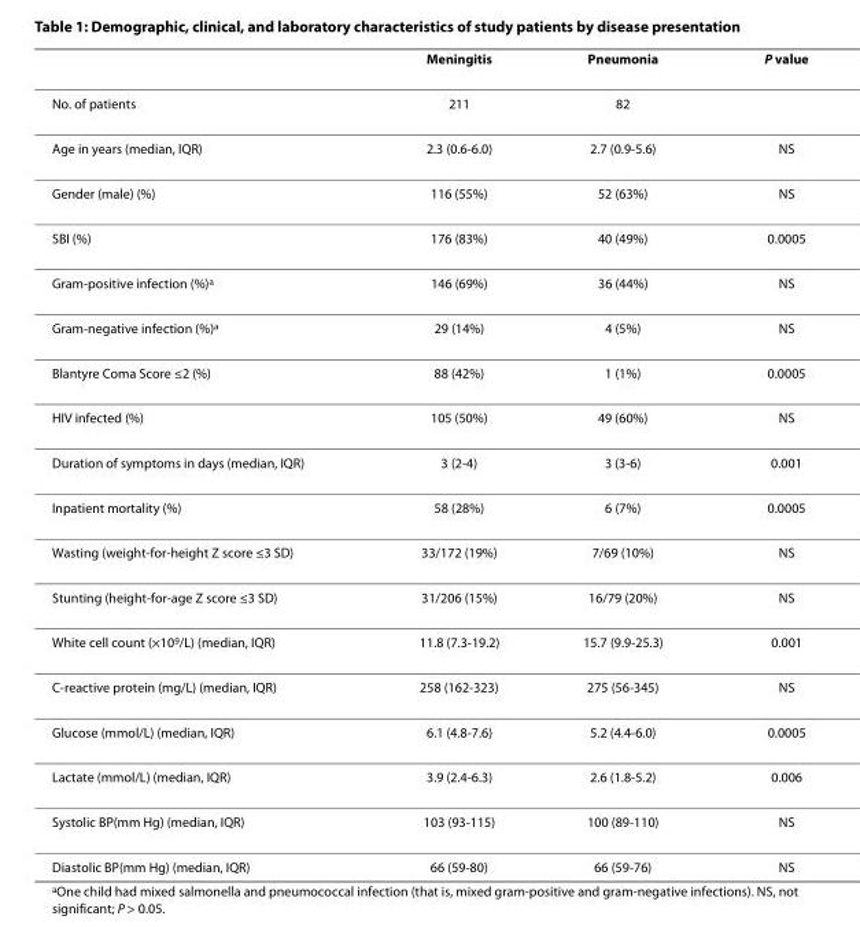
<table><thead><tr><td></td><td>Meningitis</td><td>Pneumonia</td><td>P value</td></tr></thead><tbody><tr><td>No. of patients</td><td>211</td><td>82</td><td></td></tr><tr><td>Age in years (median, IQR)</td><td>2.3 (0.6-6.0)</td><td>2.7 (0.9-5.6)</td><td>NS</td></tr><tr><td>Gender (male) (%)</td><td>116 (55%)</td><td>52 (63%)</td><td>NS</td></tr><tr><td>SBI (%)</td><td>176 (83%)</td><td>40 (49%)</td><td>0.0005</td></tr><tr><td>Gram-positive infection (%)<sup>a</sup></td><td>146 (69%)</td><td>36 (44%)</td><td>NS</td></tr><tr><td>Gram-negative infection (%)<sup>a</sup></td><td>29 (14%)</td><td>4 (5%)</td><td>NS</td></tr><tr><td>Blantyre Coma Score ≤2 (%)</td><td>88 (42%)</td><td>1 (1%)</td><td>0.0005</td></tr><tr><td>HIV infected (%)</td><td>105 (50%)</td><td>49 (60%)</td><td>NS</td></tr><tr><td>Duration of symptoms in days (median, IQR)</td><td>3 (2-4)</td><td>3 (3-6)</td><td>0.001</td></tr><tr><td>Inpatient mortality (%)</td><td>58 (28%)</td><td>6 (7%)</td><td>0.0005</td></tr><tr><td>Wasting (weight-for-height Z score ≤3 SD)</td><td>33/172 (19%)</td><td>7/69 (10%)</td><td>NS</td></tr><tr><td>Stunting (height-for-age Z score ≤3 SD)</td><td>31/206 (15%)</td><td>16/79 (20%)</td><td>NS</td></tr><tr><td>White cell count (×10<sup>9</sup>/L) (median, IQR)</td><td>11.8 (7.3-19.2)</td><td>15.7 (9.9-25.3)</td><td>0.001</td></tr><tr><td>C-reactive protein (mg/L) (median, IQR)</td><td>258 (162-323)</td><td>275 (56-345)</td><td>NS</td></tr><tr><td>Glucose (mmol/L) (median, IQR)</td><td>6.1 (4.8-7.6)</td><td>5.2 (4.4-6.0)</td><td>0.0005</td></tr><tr><td>Lactate (mmol/L) (median, IQR)</td><td>3.9 (2.4-6.3)</td><td>2.6 (1.8-5.2)</td><td>0.006</td></tr><tr><td>Systolic BP(mm Hg) (median, IQR)</td><td>103 (93-115)</td><td>100 (89-110)</td><td>NS</td></tr><tr><td>Diastolic BP(mm Hg) (median, IQR)</td><td>66 (59-80)</td><td>66 (59-76)</td><td>NS</td></tr></tbody></table>